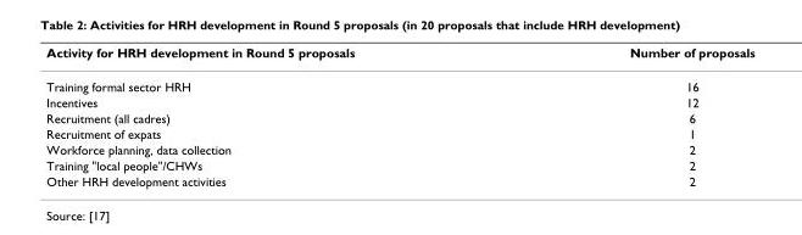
<table><thead><tr><td>Activity for HRH development in Round 5 proposals</td><td>Number of proposals</td></tr></thead><tbody><tr><td>Training formal sector HRH</td><td>16</td></tr><tr><td>Incentives</td><td>12</td></tr><tr><td>Recruitment (all cadres)</td><td>6</td></tr><tr><td>Recruitment of expats</td><td>1</td></tr><tr><td>Workforce planning, data collection</td><td>2</td></tr><tr><td>Training &quot;local people&quot;/CHWs</td><td>2</td></tr><tr><td>Other HRH development activities</td><td>2</td></tr></tbody></table>